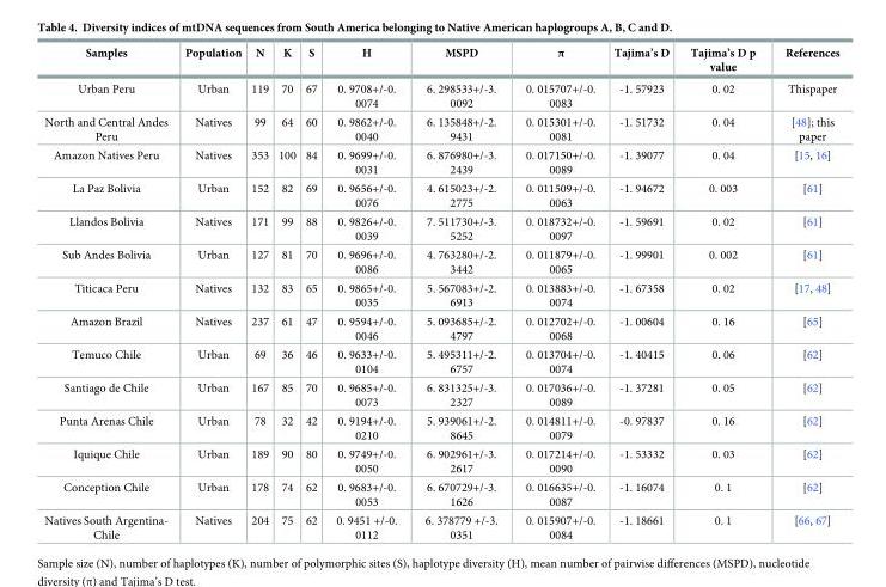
<table><thead><tr><td>Samples</td><td>Population</td><td>N</td><td>K</td><td>S</td><td>H</td><td>MSPD</td><td>π</td><td>Tajima’s D</td><td>Tajima’s D p value</td><td>References</td></tr></thead><tbody><tr><td>Urban Peru</td><td>Urban</td><td>119</td><td>70</td><td>67</td><td>0. 9708+/-0. 0074</td><td>6. 298533+/-3. 0092</td><td>0. 015707+/-0. 0083</td><td>-1. 57923</td><td>0. 02</td><td>Thispaper</td></tr><tr><td>North and Central Andes Peru</td><td>Natives</td><td>99</td><td>64</td><td>60</td><td>0. 9862+/-0. 0040</td><td>6. 135848+/-2. 9431</td><td>0. 015301+/-0. 0081</td><td>-1. 51732</td><td>0. 04</td><td>[48]; this paper</td></tr><tr><td>Amazon Natives Peru</td><td>Natives</td><td>353</td><td>100</td><td>84</td><td>0. 9699+/-0. 0031</td><td>6. 876980+/-3. 2439</td><td>0. 017150+/-0. 0089</td><td>-1. 39077</td><td>0. 04</td><td>[15, 16]</td></tr><tr><td>La Paz Bolivia</td><td>Urban</td><td>152</td><td>82</td><td>69</td><td>0. 9656+/-0. 0076</td><td>4. 615023+/-2. 2775</td><td>0. 011509+/-0. 0063</td><td>-1. 94672</td><td>0. 003</td><td>[61]</td></tr><tr><td>Llandos Bolivia</td><td>Natives</td><td>171</td><td>99</td><td>88</td><td>0. 9826+/-0. 0039</td><td>7. 511730+/-3. 5252</td><td>0. 018732+/-0. 0097</td><td>-1. 59691</td><td>0. 02</td><td>[61]</td></tr><tr><td>Sub Andes Bolivia</td><td>Urban</td><td>127</td><td>81</td><td>70</td><td>0. 9696+/-0. 0086</td><td>4. 763280+/-2. 3442</td><td>0. 011879+/-0. 0065</td><td>-1. 99901</td><td>0. 002</td><td>[61]</td></tr><tr><td>Titicaca Peru</td><td>Natives</td><td>132</td><td>83</td><td>65</td><td>0. 9865+/-0. 0035</td><td>5. 567083+/-2. 6913</td><td>0. 013883+/-0. 0074</td><td>-1. 67358</td><td>0. 02</td><td>[17, 48]</td></tr><tr><td>Amazon Brazil</td><td>Natives</td><td>237</td><td>61</td><td>47</td><td>0. 9594+/-0. 0046</td><td>5. 093685+/-2. 4797</td><td>0. 012702+/-0. 0068</td><td>-1. 00604</td><td>0. 16</td><td>[65]</td></tr><tr><td>Temuco Chile</td><td>Urban</td><td>69</td><td>36</td><td>46</td><td>0. 9633+/-0. 0104</td><td>5. 495311+/-2. 6757</td><td>0. 013704+/-0. 0074</td><td>-1. 40415</td><td>0. 06</td><td>[62]</td></tr><tr><td>Santiago de Chile</td><td>Urban</td><td>167</td><td>85</td><td>70</td><td>0. 9685+/-0. 0073</td><td>6. 831325+/-3. 2327</td><td>0. 017036+/-0. 0089</td><td>-1. 37281</td><td>0. 05</td><td>[62]</td></tr><tr><td>Punta Arenas Chile</td><td>Urban</td><td>78</td><td>32</td><td>42</td><td>0. 9194+/-0. 0210</td><td>5. 939061+/-2. 8645</td><td>0. 014811+/-0. 0079</td><td>-0. 97837</td><td>0. 16</td><td>[62]</td></tr><tr><td>Iquique Chile</td><td>Urban</td><td>189</td><td>90</td><td>80</td><td>0. 9749+/-0. 0050</td><td>6. 902961+/-3. 2617</td><td>0. 017214+/-0. 0090</td><td>-1. 53332</td><td>0. 03</td><td>[62]</td></tr><tr><td>Conception Chile</td><td>Urban</td><td>178</td><td>74</td><td>62</td><td>0. 9683+/-0. 0053</td><td>6. 670729+/-3. 1626</td><td>0. 016635+/-0. 0087</td><td>-1. 16074</td><td>0. 1</td><td>[62]</td></tr><tr><td>Natives South Argentina- Chile</td><td>Natives</td><td>204</td><td>75</td><td>62</td><td>0. 9451 +/-0. 0112</td><td>6. 378779 +/-3. 0351</td><td>0. 015907+/-0. 0084</td><td>-1. 18661</td><td>0. 1</td><td>[66, 67]</td></tr></tbody></table>